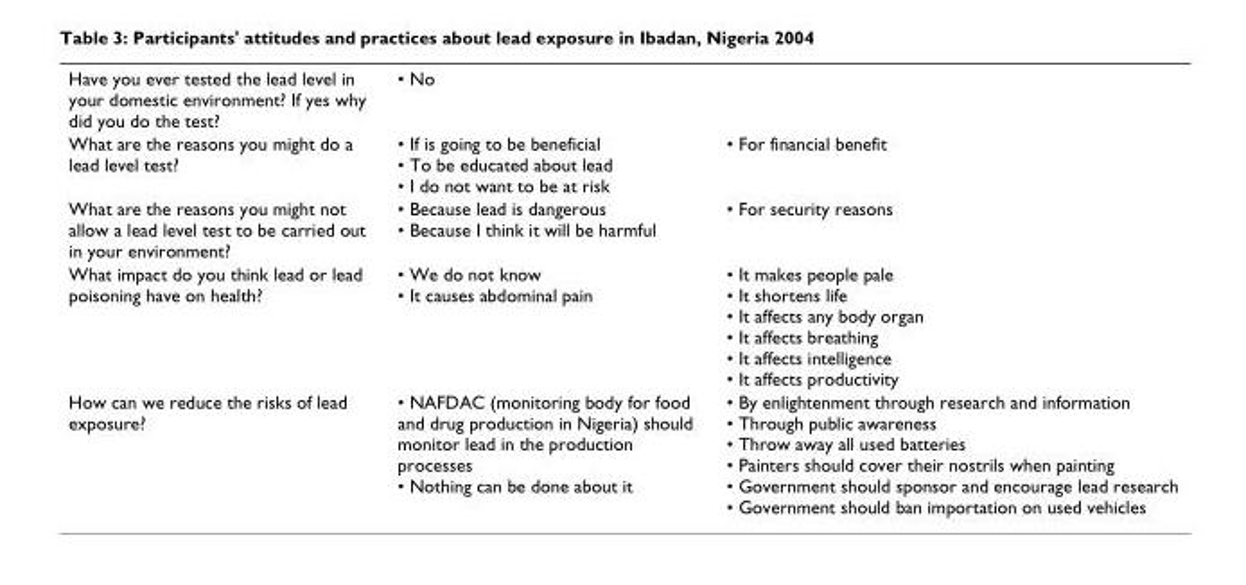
<table><tbody><tr><td>Have you ever tested the lead level in your domestic environment? If yes why did you do the test?</td><td>• No</td><td></td></tr><tr><td>What are the reasons you might do a lead level test?</td><td>• If is going to be beneficial • To be educated about lead • I do not want to be at risk</td><td>• For financial benefit</td></tr><tr><td>What are the reasons you might not allow a lead level test to be carried out in your environment?</td><td>• Because lead is dangerous • Because I think it will be harmful</td><td>• For security reasons</td></tr><tr><td>What impact do you think lead or lead poisoning have on health?</td><td>• We do not know • It causes abdominal pain</td><td>• It makes people pale • It shortens life • It affects any body organ • It affects breathing • It affects intelligence • It affects productivity</td></tr><tr><td>How can we reduce the risks of lead exposure?</td><td>• NAFDAC (monitoring body for food and drug production in Nigeria) should monitor lead in the production processes • Nothing can be done about it</td><td>• By enlightenment through research and information • Through public awareness • Throw away all used batteries • Painters should cover their nostrils when painting • Government should sponsor and encourage lead research • Government should ban importation on used vehicles</td></tr></tbody></table>